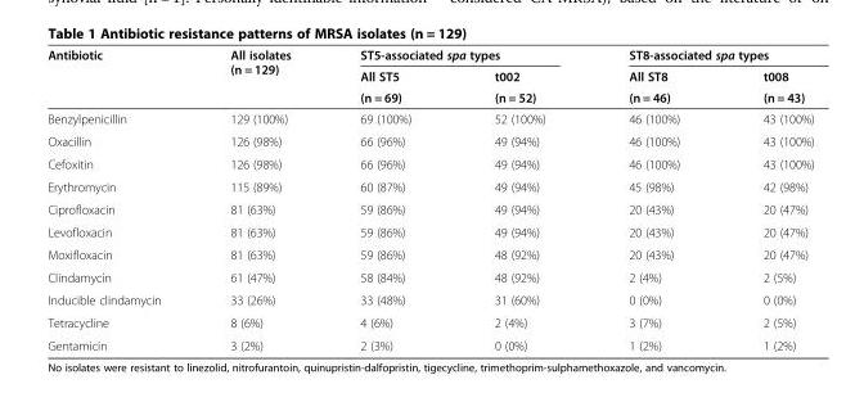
<table><thead><tr><td rowspan="3">Antibiotic</td><td rowspan="3">All isolates (n = 129)</td><td colspan="2">ST5-associated spa types</td><td colspan="2">ST8-associated spa types</td></tr><tr><td rowspan="2">All ST5 (n = 69)</td><td rowspan="2">t002 (n = 52)</td><td rowspan="2">All ST8 (n = 46)</td><td rowspan="2">t008 (n = 43)</td></tr><tr></tr></thead><tbody><tr><td>Benzylpenicillin</td><td>129 (100%)</td><td>69 (100%)</td><td>52 (100%)</td><td>46 (100%)</td><td>43 (100%)</td></tr><tr><td>Oxacillin</td><td>126 (98%)</td><td>66 (96%)</td><td>49 (94%)</td><td>46 (100%)</td><td>43 (100%)</td></tr><tr><td>Cefoxitin</td><td>126 (98%)</td><td>66 (96%)</td><td>49 (94%)</td><td>46 (100%)</td><td>43 (100%)</td></tr><tr><td>Erythromycin</td><td>115 (89%)</td><td>60 (87%)</td><td>49 (94%)</td><td>45 (98%)</td><td>42 (98%)</td></tr><tr><td>Ciprofloxacin</td><td>81 (63%)</td><td>59 (86%)</td><td>49 (94%)</td><td>20 (43%)</td><td>20 (47%)</td></tr><tr><td>Levofloxacin</td><td>81 (63%)</td><td>59 (86%)</td><td>49 (94%)</td><td>20 (43%)</td><td>20 (47%)</td></tr><tr><td>Moxifloxacin</td><td>81 (63%)</td><td>59 (86%)</td><td>48 (92%)</td><td>20 (43%)</td><td>20 (47%)</td></tr><tr><td>Clindamycin</td><td>61 (47%)</td><td>58 (84%)</td><td>48 (92%)</td><td>2 (4%)</td><td>2 (5%)</td></tr><tr><td>Inducible clindamycin</td><td>33 (26%)</td><td>33 (48%)</td><td>31 (60%)</td><td>0 (0%)</td><td>0 (0%)</td></tr><tr><td>Tetracycline</td><td>8 (6%)</td><td>4 (6%)</td><td>2 (4%)</td><td>3 (7%)</td><td>2 (5%)</td></tr><tr><td>Gentamicin</td><td>3 (2%)</td><td>2 (3%)</td><td>0 (0%)</td><td>1 (2%)</td><td>1 (2%)</td></tr></tbody></table>